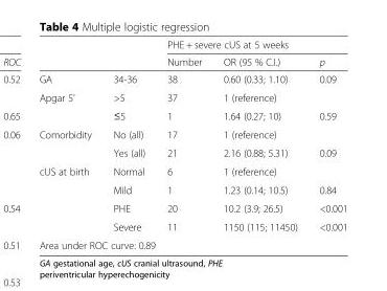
<table><thead><tr><td rowspan="2"></td><td rowspan="2"></td><td colspan="3">PHE + severe cUS at 5 weeks</td></tr><tr><td>Number</td><td>OR (95 % C.I.)</td><td>p</td></tr></thead><tbody><tr><td>GA</td><td>34-36</td><td>38</td><td>0.60 (0.33; 1.10)</td><td>0.09</td></tr><tr><td rowspan="2">Apgar 5’</td><td>&gt;5</td><td>37</td><td>1 (reference)</td><td></td></tr><tr><td>≤5</td><td>1</td><td>1.64 (0.27; 10)</td><td>0.59</td></tr><tr><td rowspan="2">Comorbidity</td><td>No (all)</td><td>17</td><td>1 (reference)</td><td></td></tr><tr><td>Yes (all)</td><td>21</td><td>2.16 (0.88; 5.31)</td><td>0.09</td></tr><tr><td rowspan="4">cUS at birth</td><td>Normal</td><td>6</td><td>1 (reference)</td><td></td></tr><tr><td>Mild</td><td>1</td><td>1.23 (0.14; 10.5)</td><td>0.84</td></tr><tr><td>PHE</td><td>20</td><td>10.2 (3.9; 26.5)</td><td>&lt;0.001</td></tr><tr><td>Severe</td><td>11</td><td>1150 (115; 11450)</td><td>&lt;0.001</td></tr><tr><td colspan="5">Area under ROC curve: 0.89</td></tr></tbody></table>